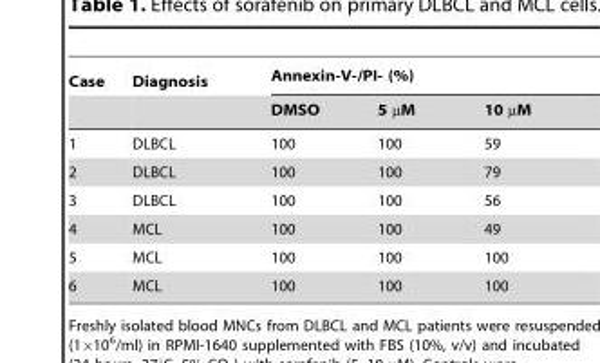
<table><thead><tr><td rowspan="2">Case</td><td rowspan="2">Diagnosis</td><td colspan="3">Annexin-V-/PI- (%)</td></tr><tr><td>DMSO</td><td>5 µM</td><td>10 µM</td></tr></thead><tbody><tr><td>1</td><td>DLBCL</td><td>100</td><td>100</td><td>59</td></tr><tr><td>2</td><td>DLBCL</td><td>100</td><td>100</td><td>79</td></tr><tr><td>3</td><td>DLBCL</td><td>100</td><td>100</td><td>56</td></tr><tr><td>4</td><td>MCL</td><td>100</td><td>100</td><td>49</td></tr><tr><td>5</td><td>MCL</td><td>100</td><td>100</td><td>100</td></tr><tr><td>6</td><td>MCL</td><td>100</td><td>100</td><td>100</td></tr></tbody></table>